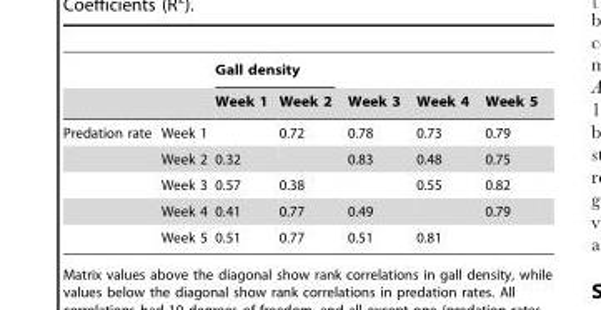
<table><thead><tr><td rowspan="2"></td><td rowspan="2"></td><td colspan="2">Gall density</td><td rowspan="2">Week 3</td><td rowspan="2">Week 4</td><td rowspan="2">Week 5</td></tr><tr><td>Week 1</td><td>Week 2</td></tr></thead><tbody><tr><td rowspan="5">Predation rate</td><td>Week 1</td><td></td><td>0.72</td><td>0.78</td><td>0.73</td><td>0.79</td></tr><tr><td>Week 2</td><td>0.32</td><td></td><td>0.83</td><td>0.48</td><td>0.75</td></tr><tr><td>Week 3</td><td>0.57</td><td>0.38</td><td></td><td>0.55</td><td>0.82</td></tr><tr><td>Week 4</td><td>0.41</td><td>0.77</td><td>0.49</td><td></td><td>0.79</td></tr><tr><td>Week 5</td><td>0.51</td><td>0.77</td><td>0.51</td><td>0.81</td><td></td></tr></tbody></table>